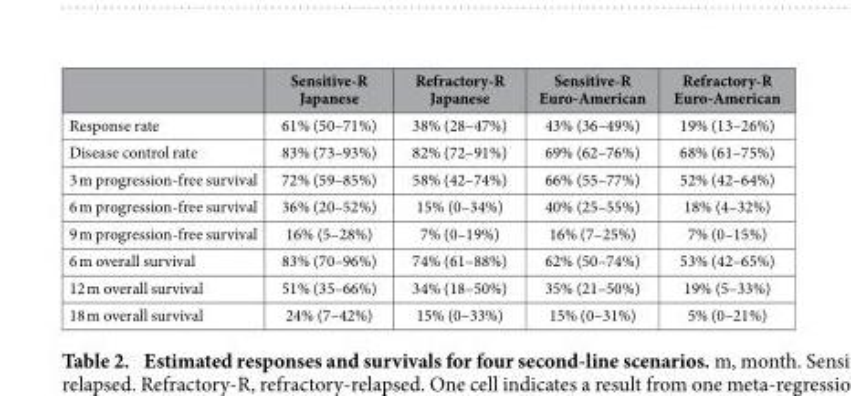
<table><thead><tr><td></td><td>Sensitive-R Japanese</td><td>Refractory-R Japanese</td><td>Sensitive-R Euro-American</td><td>Refractory-R Euro-American</td></tr></thead><tbody><tr><td>Response rate</td><td>61% (50–71%)</td><td>38% (28–47%)</td><td>43% (36–49%)</td><td>19% (13–26%)</td></tr><tr><td>Disease control rate</td><td>83% (73–93%)</td><td>82% (72–91%)</td><td>69% (62–76%)</td><td>68% (61–75%)</td></tr><tr><td>3 m progression-free survival</td><td>72% (59–85%)</td><td>58% (42–74%)</td><td>66% (55–77%)</td><td>52% (42–64%)</td></tr><tr><td>6 m progression-free survival</td><td>36% (20–52%)</td><td>15% (0–34%)</td><td>40% (25–55%)</td><td>18% (4–32%)</td></tr><tr><td>9 m progression-free survival</td><td>16% (5–28%)</td><td>7% (0–19%)</td><td>16% (7–25%)</td><td>7% (0–15%)</td></tr><tr><td>6 m overall survival</td><td>83% (70–96%)</td><td>74% (61–88%)</td><td>62% (50–74%)</td><td>53% (42–65%)</td></tr><tr><td>12 m overall survival</td><td>51% (35–66%)</td><td>34% (18–50%)</td><td>35% (21–50%)</td><td>19% (5–33%)</td></tr><tr><td>18 m overall survival</td><td>24% (7–42%)</td><td>15% (0–33%)</td><td>15% (0–31%)</td><td>5% (0–21%)</td></tr></tbody></table>